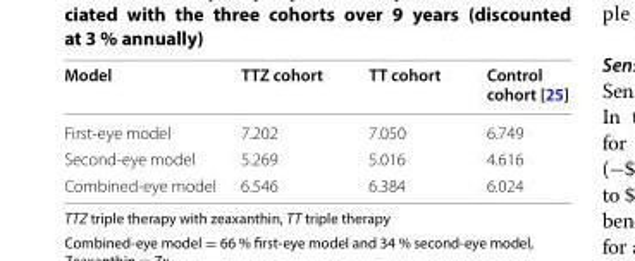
<table><thead><tr><td>Model</td><td>TTZ cohort</td><td>TT cohort</td><td>Control cohort [25]</td></tr></thead><tbody><tr><td>First-eye model</td><td>7.202</td><td>7.050</td><td>6.749</td></tr><tr><td>Second-eye model</td><td>5.269</td><td>5.016</td><td>4.616</td></tr><tr><td>Combined-eye model</td><td>6.546</td><td>6.384</td><td>6.024</td></tr></tbody></table>